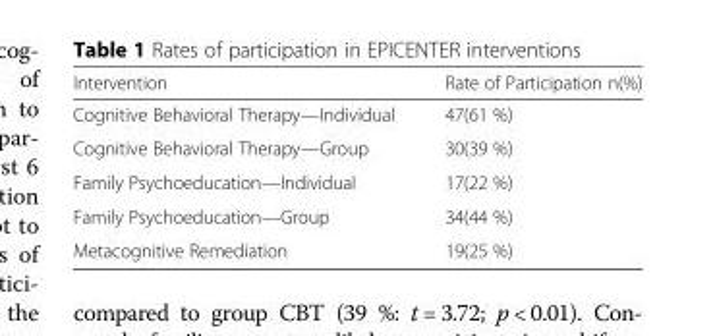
<table><thead><tr><td>Intervention</td><td>Rate of Participation n(%)</td></tr></thead><tbody><tr><td>Cognitive Behavioral Therapy—Individual</td><td>47(61 %)</td></tr><tr><td>Cognitive Behavioral Therapy—Group</td><td>30(39 %)</td></tr><tr><td>Family Psychoeducation—Individual</td><td>17(22 %)</td></tr><tr><td>Family Psychoeducation—Group</td><td>34(44 %)</td></tr><tr><td>Metacognitive Remediation</td><td>19(25 %)</td></tr></tbody></table>